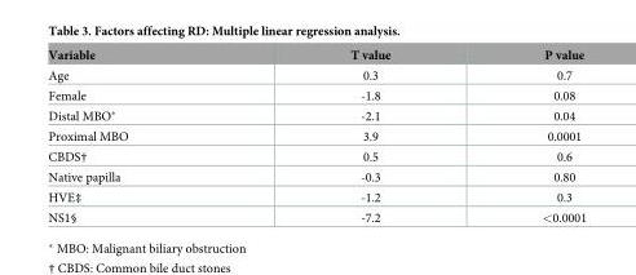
<table><thead><tr><td>Variable</td><td>T value</td><td>P value</td></tr></thead><tbody><tr><td>Age</td><td>0.3</td><td>0.7</td></tr><tr><td>Female</td><td>-1.8</td><td>0.08</td></tr><tr><td>Distal MBO*</td><td>-2.1</td><td>0.04</td></tr><tr><td>Proximal MBO</td><td>3.9</td><td>0.0001</td></tr><tr><td>CBDS†</td><td>0.5</td><td>0.6</td></tr><tr><td>Native papilla</td><td>-0.3</td><td>0.80</td></tr><tr><td>HVE‡</td><td>-1.2</td><td>0.3</td></tr><tr><td>NS1§</td><td>-7.2</td><td>&lt;0.0001</td></tr></tbody></table>